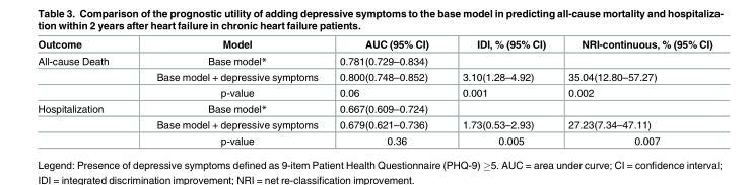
<table><thead><tr><td>Outcome</td><td>Model</td><td>AUC (95% CI)</td><td>IDI, % (95% CI)</td><td>NRI-continuous, % (95% CI)</td></tr></thead><tbody><tr><td rowspan="3">All-cause Death</td><td>Base model*</td><td>0.781(0.729–0.834)</td><td></td><td></td></tr><tr><td>Base model + depressive symptoms</td><td>0.800(0.748–0.852)</td><td>3.10(1.28–4.92)</td><td>35.04(12.80–57.27)</td></tr><tr><td>p-value</td><td>0.06</td><td>0.001</td><td>0.002</td></tr><tr><td rowspan="3">Hospitalization</td><td>Base model*</td><td>0.667(0.609–0.724)</td><td></td><td></td></tr><tr><td>Base model + depressive symptoms</td><td>0.679(0.621–0.736)</td><td>1.73(0.53–2.93)</td><td>27.23(7.34–47.11)</td></tr><tr><td>p-value</td><td>0.36</td><td>0.005</td><td>0.007</td></tr></tbody></table>